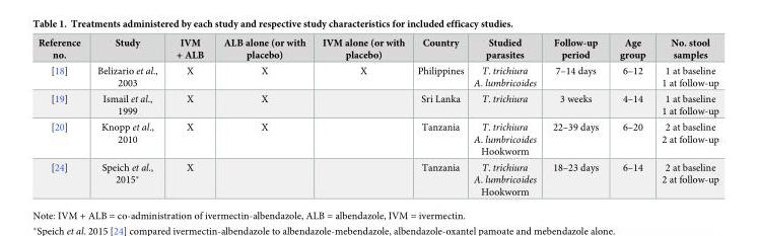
<table><thead><tr><td>Reference no.</td><td>Study</td><td>IVM + ALB</td><td>ALB alone (or with placebo)</td><td>IVM alone (or with placebo)</td><td>Country</td><td>Studied parasites</td><td>Follow-up period</td><td>Age group</td><td>No. stool samples</td></tr></thead><tbody><tr><td>[18]</td><td>Belizario et al., 2003</td><td>X</td><td>X</td><td>X</td><td>Philippines</td><td>T. trichiura A. lumbricoides</td><td>7–14 days</td><td>6–12</td><td>1 at baseline 1 at follow-up</td></tr><tr><td>[19]</td><td>Ismail et al., 1999</td><td>X</td><td>X</td><td></td><td>Sri Lanka</td><td>T. trichiura</td><td>3 weeks</td><td>4–14</td><td>1 at baseline 1 at follow-up</td></tr><tr><td>[20]</td><td>Knopp et al., 2010</td><td>X</td><td>X</td><td></td><td>Tanzania</td><td>T. trichiura A. lumbricoides Hookworm</td><td>22–39 days</td><td>6–20</td><td>2 at baseline 2 at follow-up</td></tr><tr><td>[24]</td><td>Speich et al., 2015*</td><td>X</td><td></td><td></td><td>Tanzania</td><td>T. trichiura A. lumbricoides Hookworm</td><td>18–23 days</td><td>6–14</td><td>2 at baseline 2 at follow-up</td></tr></tbody></table>